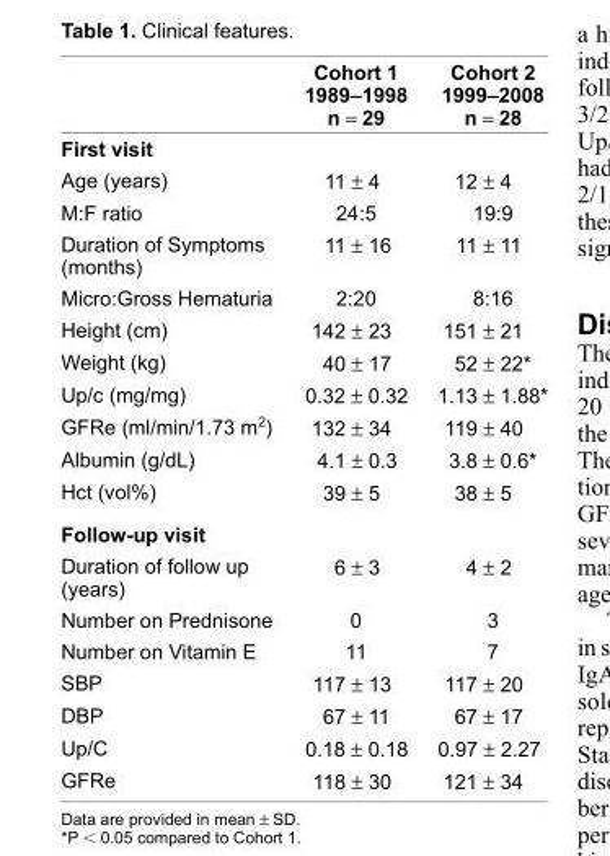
<table><thead><tr><td></td><td>Cohort 1 1989–1998 n = 29</td><td>Cohort 2 1999–2008 n = 28</td></tr></thead><tbody><tr><td colspan="3">First visit</td></tr><tr><td>Age (years)</td><td>11 ± 4</td><td>12 ± 4</td></tr><tr><td>M:F ratio</td><td>24:5</td><td>19:9</td></tr><tr><td>Duration of Symptoms (months)</td><td>11 ± 16</td><td>11 ± 11</td></tr><tr><td>Micro:Gross Hematuria</td><td>2:20</td><td>8:16</td></tr><tr><td>Height (cm)</td><td>142 ± 23</td><td>151 ± 21</td></tr><tr><td>Weight (kg)</td><td>40 ± 17</td><td>52 ± 22*</td></tr><tr><td>Up/c (mg/mg)</td><td>0.32 ± 0.32</td><td>1.13 ± 1.88*</td></tr><tr><td>GFRe (ml/min/1.73 m<sup>2</sup>)</td><td>132 ± 34</td><td>119 ± 40</td></tr><tr><td>Albumin (g/dL)</td><td>4.1 ± 0.3</td><td>3.8 ± 0.6*</td></tr><tr><td>Hct (vol%)</td><td>39 ± 5</td><td>38 ± 5</td></tr><tr><td colspan="3">Follow-up visit</td></tr><tr><td>Duration of follow up (years)</td><td>6 ± 3</td><td>4 ± 2</td></tr><tr><td>Number on Prednisone</td><td>0</td><td>3</td></tr><tr><td>Number on Vitamin E</td><td>11</td><td>7</td></tr><tr><td>SBP</td><td>117 ± 13</td><td>117 ± 20</td></tr><tr><td>DBP</td><td>67 ± 11</td><td>67 ± 17</td></tr><tr><td>Up/C</td><td>0.18 ± 0.18</td><td>0.97 ± 2.27</td></tr><tr><td>GFRe</td><td>118 ± 30</td><td>121 ± 34</td></tr></tbody></table>